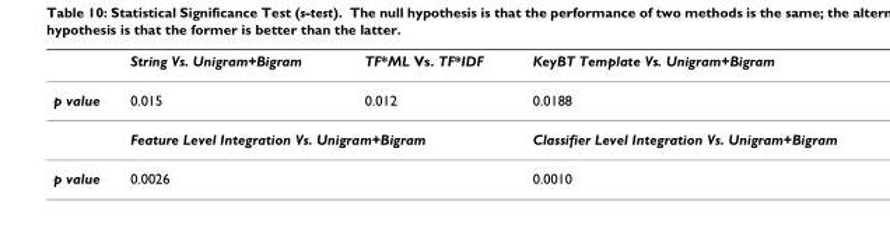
<table><thead><tr><td></td><td>String Vs. Unigram+Bigram</td><td>TF*ML Vs. TF*IDF</td><td>KeyBT Template Vs. Unigram+Bigram</td></tr></thead><tbody><tr><td rowspan="2">p value</td><td>0.015</td><td>0.012</td><td>0.0188</td></tr><tr><td colspan="2">Feature Level Integration Vs. Unigram+Bigram</td><td>Classifier Level Integration Vs. Unigram+Bigram</td></tr><tr><td>p value</td><td colspan="2">0.0026</td><td>0.0010</td></tr></tbody></table>